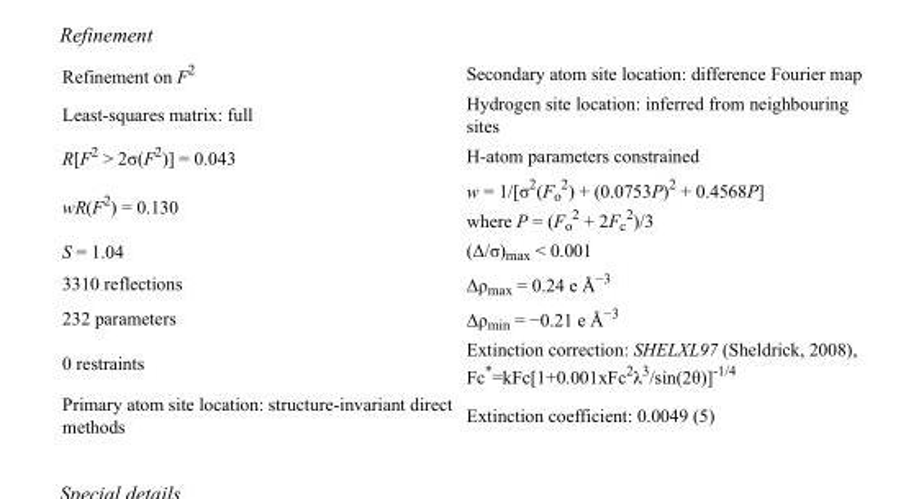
<table><tbody><tr><td>Refinement on F<sup>2</sup></td><td>Secondary atom site location: difference Fourier map</td></tr><tr><td>Least-squares matrix: full</td><td>Hydrogen site location: inferred from neighbouring sites</td></tr><tr><td>R[F<sup>2</sup> &gt; 2σ(F<sup>2</sup>)] = 0.043</td><td>H-atom parameters constrained</td></tr><tr><td>wR(F<sup>2</sup>) = 0.130</td><td>w = 1/[σ<sup>2</sup>(F<sub>o</sub> <sup>2</sup>) + (0.0753P)<sup>2</sup> + 0.4568P] where P = (F<sub>o</sub> <sup>2</sup> + 2F<sub>c</sub> <sup>2</sup>)/3</td></tr><tr><td>S = 1.04</td><td>(Δ/σ)<sub>max</sub> &lt; 0.001</td></tr><tr><td>3310 reflections</td><td>Δρ<sub>max</sub> = 0.24 e Å<sup>−3</sup></td></tr><tr><td>232 parameters</td><td>Δρ<sub>min</sub> = −0.21 e Å<sup>−3</sup></td></tr><tr><td>0 restraints</td><td>Extinction correction: SHELXL97 (Sheldrick, 2008), Fc*=kFc[1+0.001xFc<sup>2</sup>λ<sup>3</sup>/sin(2θ)]<sup>-1/4</sup></td></tr><tr><td>Primary atom site location: structure-invariant direct methods</td><td>Extinction coefficient: 0.0049 (5)</td></tr></tbody></table>